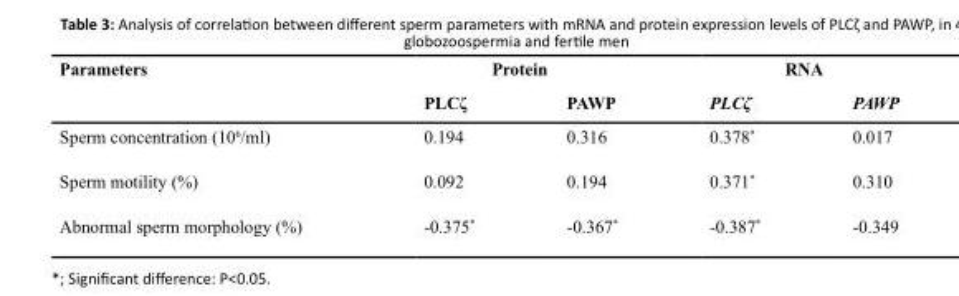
<table><thead><tr><td rowspan="2">Parameters</td><td colspan="2">Protein</td><td colspan="2">RNA</td></tr><tr><td>PLCζ</td><td>PAWP</td><td>PLCζ</td><td>PAWP</td></tr></thead><tbody><tr><td>Sperm concentration (10<sup>6</sup>/ml)</td><td>0.194</td><td>0.316</td><td>0.378*</td><td>0.017</td></tr><tr><td>Sperm motility (%)</td><td>0.092</td><td>0.194</td><td>0.371*</td><td>0.310</td></tr><tr><td>Abnormal sperm morphology (%)</td><td>-0.375*</td><td>-0.367*</td><td>-0.387*</td><td>-0.349</td></tr></tbody></table>